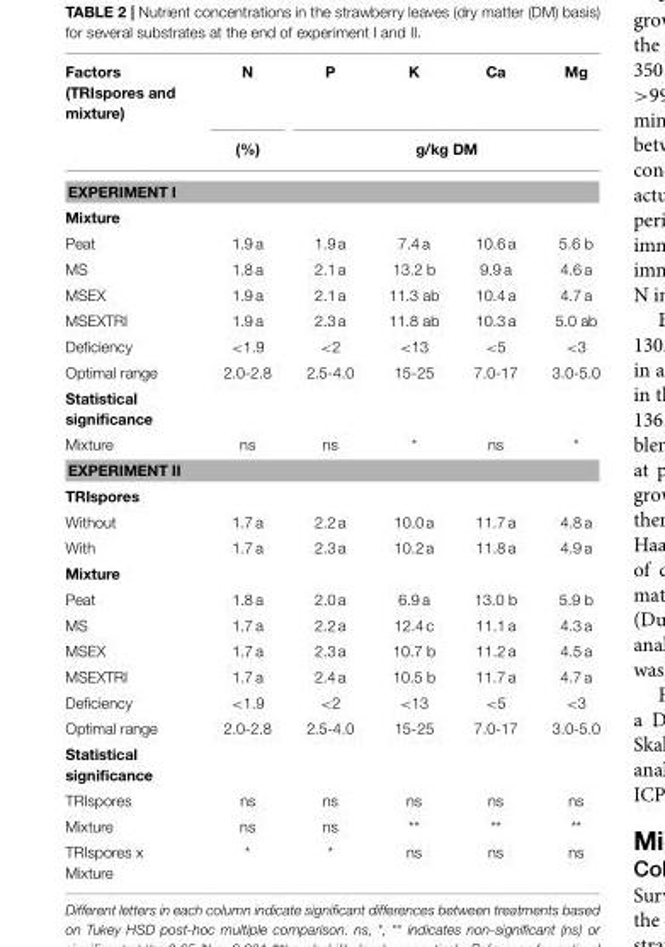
<table><thead><tr><td rowspan="2">Factors (TRIspores and mixture)</td><td rowspan="2">N (%)</td><td>P</td><td>K</td><td>Ca</td><td>Mg</td></tr><tr><td colspan="4">g/kg DM</td></tr></thead><tbody><tr><td colspan="6">EXPERIMENT I</td></tr><tr><td colspan="6">Mixture</td></tr><tr><td>Peat</td><td>1.9 a</td><td>1.9 a</td><td>7.4 a</td><td>10.6 a</td><td>5.6 b</td></tr><tr><td>MS</td><td>1.8 a</td><td>2.1 a</td><td>13.2 b</td><td>9.9 a</td><td>4.6 a</td></tr><tr><td>MSEX</td><td>1.9 a</td><td>2.1 a</td><td>11.3 ab</td><td>10.4 a</td><td>4.7 a</td></tr><tr><td>MSEXTRI</td><td>1.9 a</td><td>2.3 a</td><td>11.8 ab</td><td>10.3 a</td><td>5.0 ab</td></tr><tr><td>Deficiency</td><td>&lt;1.9</td><td>&lt;2</td><td>&lt;13</td><td>&lt;5</td><td>&lt;3</td></tr><tr><td>Optimal range</td><td>2.0-2.8</td><td>2.5-4.0</td><td>15-25</td><td>7.0-17</td><td>3.0-5.0</td></tr><tr><td colspan="6">Statistical significance</td></tr><tr><td>Mixture</td><td>ns</td><td>ns</td><td>*</td><td>ns</td><td>*</td></tr><tr><td colspan="6">EXPERIMENT II</td></tr><tr><td colspan="6">TRIspores</td></tr><tr><td>Without</td><td>1.7 a</td><td>2.2 a</td><td>10.0 a</td><td>11.7 a</td><td>4.8 a</td></tr><tr><td>With</td><td>1.7 a</td><td>2.3 a</td><td>10.2 a</td><td>11.8 a</td><td>4.9 a</td></tr><tr><td colspan="6">Mixture</td></tr><tr><td>Peat</td><td>1.8 a</td><td>2.0 a</td><td>6.9 a</td><td>13.0 b</td><td>5.9 b</td></tr><tr><td>MS</td><td>1.7 a</td><td>2.2 a</td><td>12.4 c</td><td>11.1 a</td><td>4.3 a</td></tr><tr><td>MSEX</td><td>1.7 a</td><td>2.3 a</td><td>10.7 b</td><td>11.2 a</td><td>4.5 a</td></tr><tr><td>MSEXTRI</td><td>1.7 a</td><td>2.4 a</td><td>10.5 b</td><td>11.7 a</td><td>4.7 a</td></tr><tr><td>Deficiency</td><td>&lt;1.9</td><td>&lt;2</td><td>&lt;13</td><td>&lt;5</td><td>&lt;3</td></tr><tr><td>Optimal range</td><td>2.0-2.8</td><td>2.5-4.0</td><td>15-25</td><td>7.0-17</td><td>3.0-5.0</td></tr><tr><td colspan="6">Statistical significance</td></tr><tr><td>TRIspores</td><td>ns</td><td>ns</td><td>ns</td><td>ns</td><td>ns</td></tr><tr><td>Mixture</td><td>ns</td><td>ns</td><td>**</td><td>**</td><td>**</td></tr><tr><td>TRIspores x Mixture</td><td>*</td><td>*</td><td>ns</td><td>ns</td><td>ns</td></tr></tbody></table>